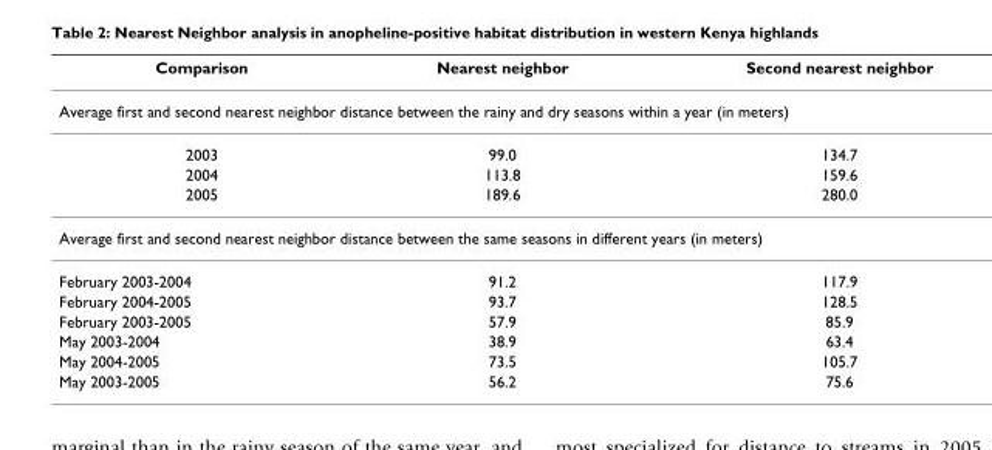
<table><thead><tr><td>Comparison</td><td>Nearest neighbor</td><td>Second nearest neighbor</td></tr></thead><tbody><tr><td colspan="3">Average first and second nearest neighbor distance between the rainy and dry seasons within a year (in meters)</td></tr><tr><td>2003</td><td>99.0</td><td>134.7</td></tr><tr><td>2004</td><td>113.8</td><td>159.6</td></tr><tr><td>2005</td><td>189.6</td><td>280.0</td></tr><tr><td colspan="3">Average first and second nearest neighbor distance between the same seasons in different years (in meters)</td></tr><tr><td>February 2003-2004</td><td>91.2</td><td>117.9</td></tr><tr><td>February 2004-2005</td><td>93.7</td><td>128.5</td></tr><tr><td>February 2003-2005</td><td>57.9</td><td>85.9</td></tr><tr><td>May 2003-2004</td><td>38.9</td><td>63.4</td></tr><tr><td>May 2004-2005</td><td>73.5</td><td>105.7</td></tr><tr><td>May 2003-2005</td><td>56.2</td><td>75.6</td></tr></tbody></table>